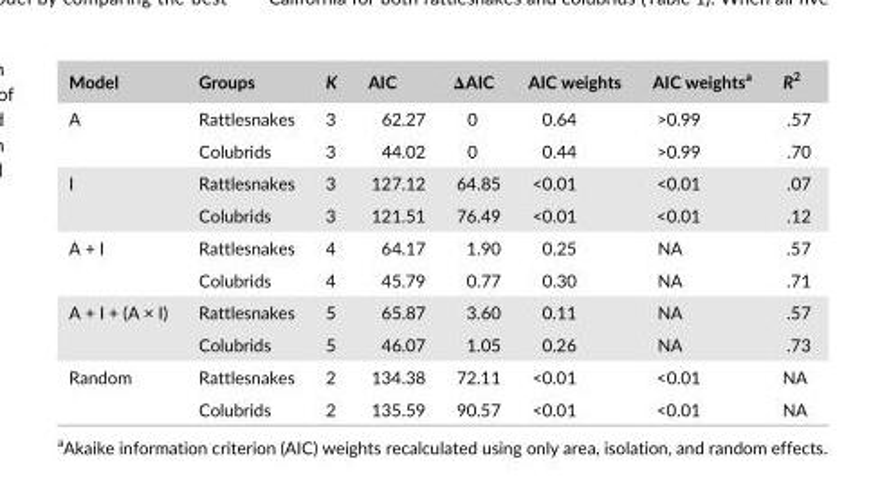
<table><thead><tr><td>Model</td><td>Groups</td><td>K</td><td>AIC</td><td>ΔAIC</td><td>AIC weights</td><td>AIC weights<sup>a</sup></td><td>R<sup>2</sup></td></tr></thead><tbody><tr><td rowspan="2">A</td><td>Rattlesnakes</td><td>3</td><td>62.27</td><td>0</td><td>0.64</td><td>&gt;0.99</td><td>.57</td></tr><tr><td>Colubrids</td><td>3</td><td>44.02</td><td>0</td><td>0.44</td><td>&gt;0.99</td><td>.70</td></tr><tr><td rowspan="2">I</td><td>Rattlesnakes</td><td>3</td><td>127.12</td><td>64.85</td><td>&lt;0.01</td><td>&lt;0.01</td><td>.07</td></tr><tr><td>Colubrids</td><td>3</td><td>121.51</td><td>76.49</td><td>&lt;0.01</td><td>&lt;0.01</td><td>.12</td></tr><tr><td rowspan="2">A + I</td><td>Rattlesnakes</td><td>4</td><td>64.17</td><td>1.90</td><td>0.25</td><td>NA</td><td>.57</td></tr><tr><td>Colubrids</td><td>4</td><td>45.79</td><td>0.77</td><td>0.30</td><td>NA</td><td>.71</td></tr><tr><td rowspan="2">A + I + (A × I)</td><td>Rattlesnakes</td><td>5</td><td>65.87</td><td>3.60</td><td>0.11</td><td>NA</td><td>.57</td></tr><tr><td>Colubrids</td><td>5</td><td>46.07</td><td>1.05</td><td>0.26</td><td>NA</td><td>.73</td></tr><tr><td rowspan="2">Random</td><td>Rattlesnakes</td><td>2</td><td>134.38</td><td>72.11</td><td>&lt;0.01</td><td>&lt;0.01</td><td>NA</td></tr><tr><td>Colubrids</td><td>2</td><td>135.59</td><td>90.57</td><td>&lt;0.01</td><td>&lt;0.01</td><td>NA</td></tr></tbody></table>